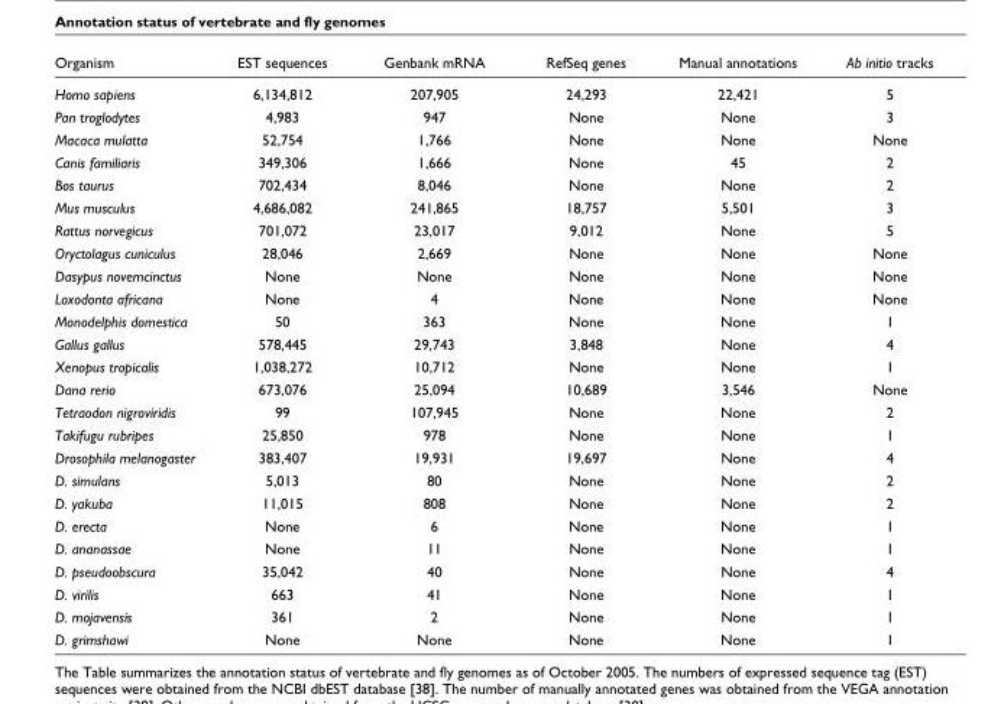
<table><thead><tr><td>Organism</td><td>EST sequences</td><td>Genbank mRNA</td><td>RefSeq genes</td><td>Manual annotations</td><td>Ab initio tracks</td></tr></thead><tbody><tr><td>Homo sapiens</td><td>6,134,812</td><td>207,905</td><td>24,293</td><td>22,421</td><td>5</td></tr><tr><td>Pan troglodytes</td><td>4,983</td><td>947</td><td>None</td><td>None</td><td>3</td></tr><tr><td>Macaca mulatta</td><td>52,754</td><td>1,766</td><td>None</td><td>None</td><td>None</td></tr><tr><td>Canis familiaris</td><td>349,306</td><td>1,666</td><td>None</td><td>45</td><td>2</td></tr><tr><td>Bos taurus</td><td>702,434</td><td>8,046</td><td>None</td><td>None</td><td>2</td></tr><tr><td>Mus musculus</td><td>4,686,082</td><td>241,865</td><td>18,757</td><td>5,501</td><td>3</td></tr><tr><td>Rattus norvegicus</td><td>701,072</td><td>23,017</td><td>9,012</td><td>None</td><td>5</td></tr><tr><td>Oryctolagus cuniculus</td><td>28,046</td><td>2,669</td><td>None</td><td>None</td><td>None</td></tr><tr><td>Dasypus novemcinctus</td><td>None</td><td>None</td><td>None</td><td>None</td><td>None</td></tr><tr><td>Loxodonta africana</td><td>None</td><td>4</td><td>None</td><td>None</td><td>None</td></tr><tr><td>Monodelphis domestica</td><td>50</td><td>363</td><td>None</td><td>None</td><td>1</td></tr><tr><td>Gallus gallus</td><td>578,445</td><td>29,743</td><td>3,848</td><td>None</td><td>4</td></tr><tr><td>Xenopus tropicalis</td><td>1,038,272</td><td>10,712</td><td>None</td><td>None</td><td>1</td></tr><tr><td>Dana rerio</td><td>673,076</td><td>25,094</td><td>10,689</td><td>3,546</td><td>None</td></tr><tr><td>Tetraodon nigroviridis</td><td>99</td><td>107,945</td><td>None</td><td>None</td><td>2</td></tr><tr><td>Takifugu rubripes</td><td>25,850</td><td>978</td><td>None</td><td>None</td><td>1</td></tr><tr><td>Drosophila melanogaster</td><td>383,407</td><td>19,931</td><td>19,697</td><td>None</td><td>4</td></tr><tr><td>D. simulans</td><td>5,013</td><td>80</td><td>None</td><td>None</td><td>2</td></tr><tr><td>D. yakuba</td><td>11,015</td><td>808</td><td>None</td><td>None</td><td>2</td></tr><tr><td>D. erecta</td><td>None</td><td>6</td><td>None</td><td>None</td><td>1</td></tr><tr><td>D. ananassae</td><td>None</td><td>11</td><td>None</td><td>None</td><td>1</td></tr><tr><td>D. pseudoobscura</td><td>35,042</td><td>40</td><td>None</td><td>None</td><td>4</td></tr><tr><td>D. virilis</td><td>663</td><td>41</td><td>None</td><td>None</td><td>1</td></tr><tr><td>D. mojavensis</td><td>361</td><td>2</td><td>None</td><td>None</td><td>1</td></tr><tr><td>D. grimshawi</td><td>None</td><td>None</td><td>None</td><td>None</td><td>1</td></tr></tbody></table>